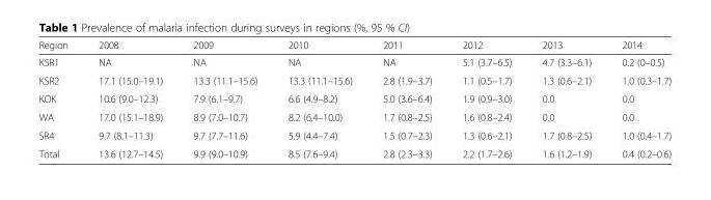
<table><thead><tr><td>Region</td><td>2008</td><td>2009</td><td>2010</td><td>2011</td><td>2012</td><td>2013</td><td>2014</td></tr></thead><tbody><tr><td>KSR1</td><td>NA</td><td>NA</td><td>NA</td><td>NA</td><td>5.1 (3.7–6.5)</td><td>4.7 (3.3–6.1)</td><td>0.2 (0–0.5)</td></tr><tr><td>KSR2</td><td>17.1 (15.0–19.1)</td><td>13.3 (11.1–15.6)</td><td>13.3 (11.1–15.6)</td><td>2.8 (1.9–3.7)</td><td>1.1 (0.5–1.7)</td><td>1.3 (0.6–2.1)</td><td>1.0 (0.3–1.7)</td></tr><tr><td>KOK</td><td>10.6 (9.0–12.3)</td><td>7.9 (6.1–9.7)</td><td>6.6 (4.9–8.2)</td><td>5.0 (3.6–6.4)</td><td>1.9 (0.9–3.0)</td><td>0.0</td><td>0.0</td></tr><tr><td>WA</td><td>17.0 (15.1–18.9)</td><td>8.9 (7.0–10.7)</td><td>8.2 (6.4–10.0)</td><td>1.7 (0.8–2.5)</td><td>1.6 (0.8–2.4)</td><td>0.0</td><td>0.0</td></tr><tr><td>SR4</td><td>9.7 (8.1–11.3)</td><td>9.7 (7.7–11.6)</td><td>5.9 (4.4–7.4)</td><td>1.5 (0.7–2.3)</td><td>1.3 (0.6–2.1)</td><td>1.7 (0.8–2.5)</td><td>1.0 (0.4–1.7)</td></tr><tr><td>Total</td><td>13.6 (12.7–14.5)</td><td>9.9 (9.0–10.9)</td><td>8.5 (7.6–9.4)</td><td>2.8 (2.3–3.3)</td><td>2.2 (1.7–2.6)</td><td>1.6 (1.2–1.9)</td><td>0.4 (0.2–0.6)</td></tr></tbody></table>